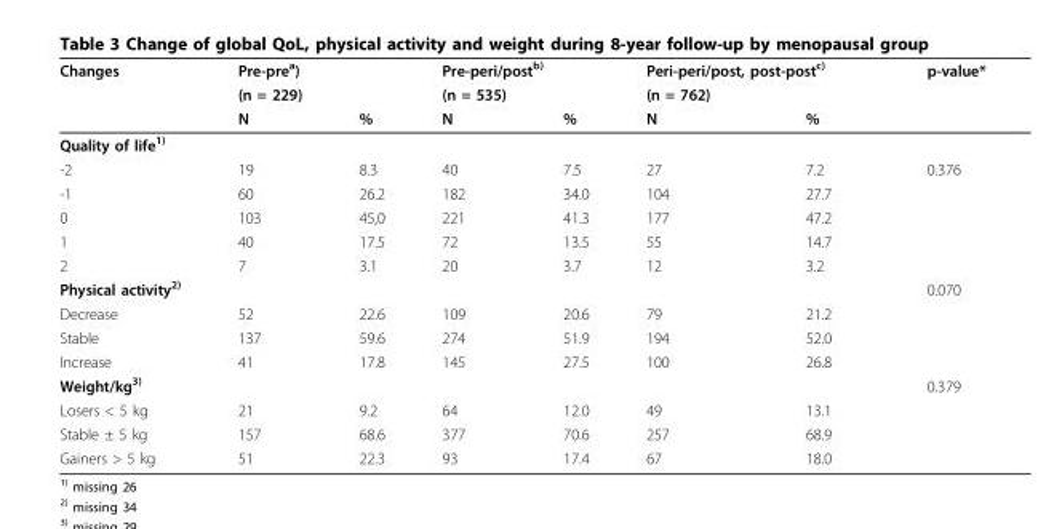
<table><thead><tr><td rowspan="3">Changes</td><td colspan="2">Pre-pre<sup>a</sup>)</td><td colspan="2">Pre-peri/post<sup>b)</sup></td><td colspan="2">Peri-peri/post, post-post<sup>c)</sup></td><td rowspan="3">p-value*</td></tr><tr><td rowspan="2">(n = 229) N</td><td rowspan="2">%</td><td rowspan="2">(n = 535) N</td><td rowspan="2">%</td><td rowspan="2">(n = 762) N</td><td rowspan="2">%</td></tr><tr></tr></thead><tbody><tr><td colspan="8">Quality of life<sup>1)</sup></td></tr><tr><td>-2</td><td>19</td><td>8.3</td><td>40</td><td>7.5</td><td>27</td><td>7.2</td><td>0.376</td></tr><tr><td>-1</td><td>60</td><td>26.2</td><td>182</td><td>34.0</td><td>104</td><td>27.7</td><td></td></tr><tr><td>0</td><td>103</td><td>45,0</td><td>221</td><td>41.3</td><td>177</td><td>47.2</td><td></td></tr><tr><td>1</td><td>40</td><td>17.5</td><td>72</td><td>13.5</td><td>55</td><td>14.7</td><td></td></tr><tr><td>2</td><td>7</td><td>3.1</td><td>20</td><td>3.7</td><td>12</td><td>3.2</td><td></td></tr><tr><td>Physical activity<sup>2)</sup></td><td></td><td></td><td></td><td></td><td></td><td></td><td>0.070</td></tr><tr><td>Decrease</td><td>52</td><td>22.6</td><td>109</td><td>20.6</td><td>79</td><td>21.2</td><td></td></tr><tr><td>Stable</td><td>137</td><td>59.6</td><td>274</td><td>51.9</td><td>194</td><td>52.0</td><td></td></tr><tr><td>Increase</td><td>41</td><td>17.8</td><td>145</td><td>27.5</td><td>100</td><td>26.8</td><td></td></tr><tr><td>Weight/kg<sup>3)</sup></td><td></td><td></td><td></td><td></td><td></td><td></td><td>0.379</td></tr><tr><td>Losers &lt; 5 kg</td><td>21</td><td>9.2</td><td>64</td><td>12.0</td><td>49</td><td>13.1</td><td></td></tr><tr><td>Stable ± 5 kg</td><td>157</td><td>68.6</td><td>377</td><td>70.6</td><td>257</td><td>68.9</td><td></td></tr><tr><td>Gainers &gt; 5 kg</td><td>51</td><td>22.3</td><td>93</td><td>17.4</td><td>67</td><td>18.0</td><td></td></tr></tbody></table>